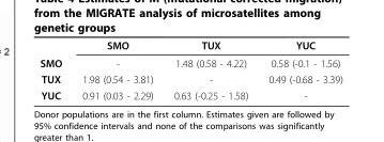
<table><thead><tr><td></td><td>SMO</td><td>TUX</td><td>YUC</td></tr></thead><tbody><tr><td>SMO</td><td>-</td><td>1.48 (0.58 - 4.22)</td><td>0.58 (-0.1 - 1.56)</td></tr><tr><td>TUX</td><td>1.98 (0.54 - 3.81)</td><td>-</td><td>0.49 (-0.68 - 3.39)</td></tr><tr><td>YUC</td><td>0.91 (0.03 - 2.29)</td><td>0.63 (-0.25 - 1.58)</td><td>-</td></tr></tbody></table>